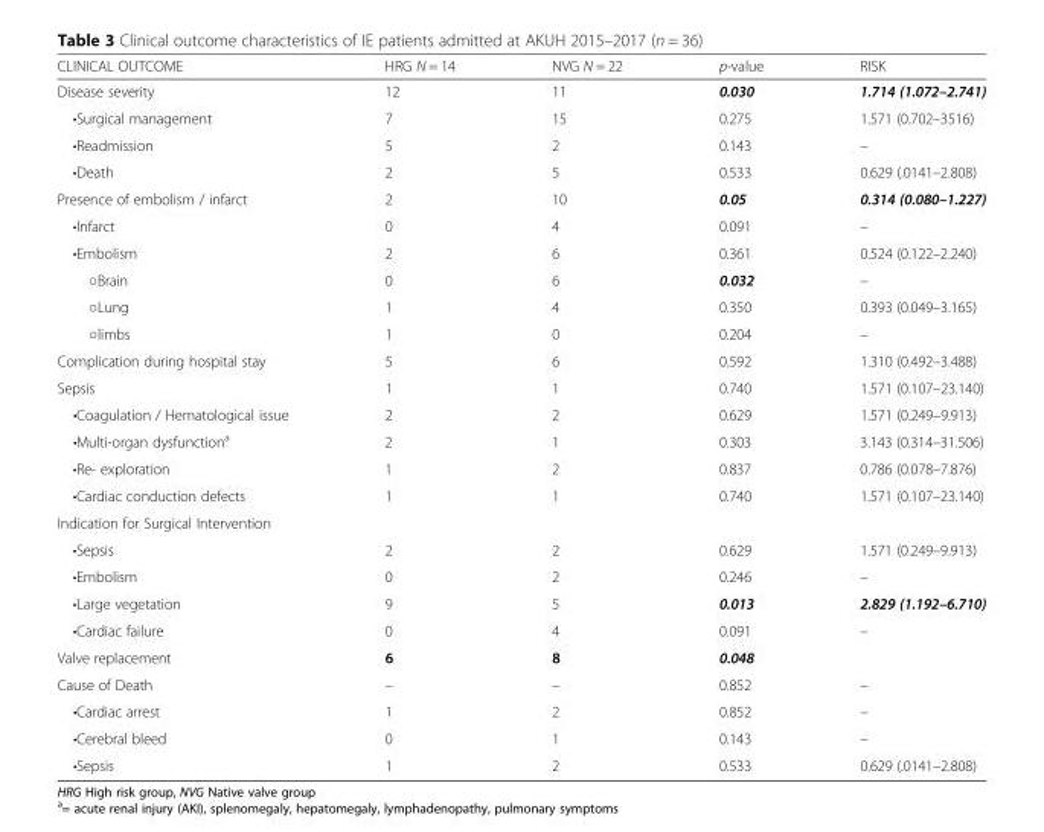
<table><thead><tr><td>CLINICAL OUTCOME</td><td>HRG N = 14</td><td>NVG N = 22</td><td>p-value</td><td>RISK</td></tr></thead><tbody><tr><td>Disease severity</td><td>12</td><td>11</td><td>0.030</td><td>1.714 (1.072–2.741)</td></tr><tr><td>•Surgical management</td><td>7</td><td>15</td><td>0.275</td><td>1.571 (0.702–3516)</td></tr><tr><td>•Readmission</td><td>5</td><td>2</td><td>0.143</td><td>–</td></tr><tr><td>•Death</td><td>2</td><td>5</td><td>0.533</td><td>0.629 (.0141–2.808)</td></tr><tr><td>Presence of embolism / infarct</td><td>2</td><td>10</td><td>0.05</td><td>0.314 (0.080–1.227)</td></tr><tr><td>•Infarct</td><td>0</td><td>4</td><td>0.091</td><td>–</td></tr><tr><td>•Embolism</td><td>2</td><td>6</td><td>0.361</td><td>0.524 (0.122–2.240)</td></tr><tr><td>○Brain</td><td>0</td><td>6</td><td>0.032</td><td>–</td></tr><tr><td>○Lung</td><td>1</td><td>4</td><td>0.350</td><td>0.393 (0.049–3.165)</td></tr><tr><td>○limbs</td><td>1</td><td>0</td><td>0.204</td><td>–</td></tr><tr><td>Complication during hospital stay</td><td>5</td><td>6</td><td>0.592</td><td>1.310 (0.492–3.488)</td></tr><tr><td>Sepsis</td><td>1</td><td>1</td><td>0.740</td><td>1.571 (0.107–23.140)</td></tr><tr><td>•Coagulation / Hematological issue</td><td>2</td><td>2</td><td>0.629</td><td>1.571 (0.249–9.913)</td></tr><tr><td>•Multi-organ dysfunction<sup>a</sup></td><td>2</td><td>1</td><td>0.303</td><td>3.143 (0.314–31.506)</td></tr><tr><td>•Re- exploration</td><td>1</td><td>2</td><td>0.837</td><td>0.786 (0.078–7.876)</td></tr><tr><td>•Cardiac conduction defects</td><td>1</td><td>1</td><td>0.740</td><td>1.571 (0.107–23.140)</td></tr><tr><td colspan="5">Indication for Surgical Intervention</td></tr><tr><td>•Sepsis</td><td>2</td><td>2</td><td>0.629</td><td>1.571 (0.249–9.913)</td></tr><tr><td>•Embolism</td><td>0</td><td>2</td><td>0.246</td><td>–</td></tr><tr><td>•Large vegetation</td><td>9</td><td>5</td><td>0.013</td><td>2.829 (1.192–6.710)</td></tr><tr><td>•Cardiac failure</td><td>0</td><td>4</td><td>0.091</td><td>–</td></tr><tr><td>Valve replacement</td><td>6</td><td>8</td><td>0.048</td><td></td></tr><tr><td>Cause of Death</td><td>–</td><td>–</td><td>0.852</td><td>–</td></tr><tr><td>•Cardiac arrest</td><td>1</td><td>2</td><td>0.852</td><td>–</td></tr><tr><td>•Cerebral bleed</td><td>0</td><td>1</td><td>0.143</td><td>–</td></tr><tr><td>•Sepsis</td><td>1</td><td>2</td><td>0.533</td><td>0.629 (.0141–2.808)</td></tr></tbody></table>